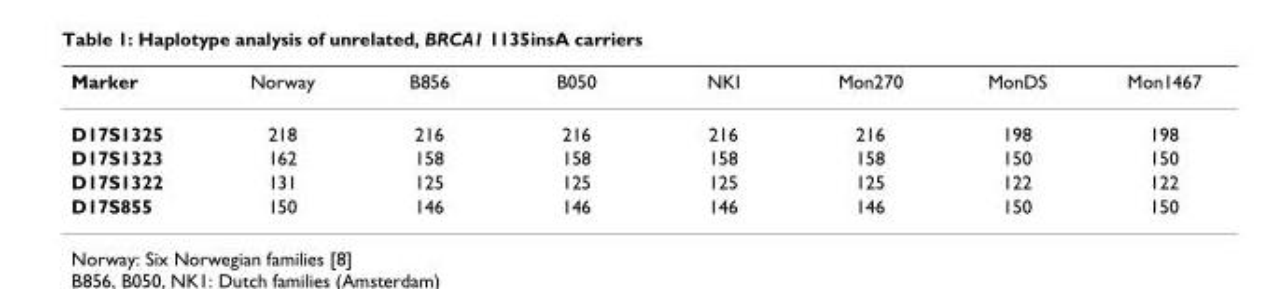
<table><thead><tr><td>Marker</td><td>Norway</td><td>B856</td><td>B050</td><td>NKI</td><td>Mon270</td><td>MonDS</td><td>Mon1467</td></tr></thead><tbody><tr><td>D17S1325</td><td>218</td><td>216</td><td>216</td><td>216</td><td>216</td><td>198</td><td>198</td></tr><tr><td>D17S1323</td><td>162</td><td>158</td><td>158</td><td>158</td><td>158</td><td>150</td><td>150</td></tr><tr><td>D17S1322</td><td>131</td><td>125</td><td>125</td><td>125</td><td>125</td><td>122</td><td>122</td></tr><tr><td>D17S855</td><td>150</td><td>146</td><td>146</td><td>146</td><td>146</td><td>150</td><td>150</td></tr></tbody></table>